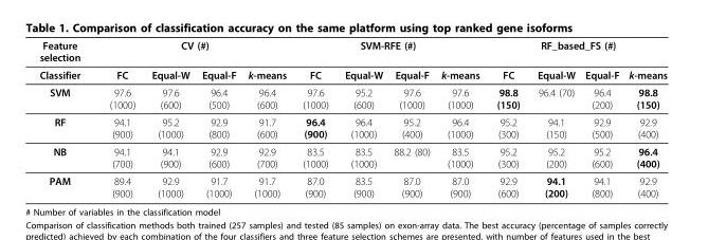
<table><thead><tr><td rowspan="2">Feature selection Classifier</td><td colspan="4">CV (#)</td><td colspan="4">SVM-RFE (#)</td><td colspan="4">RF_based_FS (#)</td></tr><tr><td>FC</td><td>Equal-W</td><td>Equal-F</td><td>k-means</td><td>FC</td><td>Equal-W</td><td>Equal-F</td><td>k-means</td><td>FC</td><td>Equal-W</td><td>Equal-F</td><td>k-means</td></tr></thead><tbody><tr><td>SVM</td><td>97.6 (1000)</td><td>97.6 (600)</td><td>96.4 (500)</td><td>96.4 (600)</td><td>97.6 (1000)</td><td>95.2 (600)</td><td>97.6 (1000)</td><td>97.6 (1000)</td><td>98.8 (150)</td><td>96.4 (70)</td><td>96.4 (200)</td><td>98.8 (150)</td></tr><tr><td>RF</td><td>94.1 (900)</td><td>95.2 (1000)</td><td>92.9 (800)</td><td>91.7 (600)</td><td>96.4 (900)</td><td>96.4 (1000)</td><td>95.2 (400)</td><td>96.4 (1000)</td><td>95.2 (300)</td><td>94.1 (150)</td><td>92.9 (500)</td><td>92.9 (400)</td></tr><tr><td>NB</td><td>94.1 (700)</td><td>94.1 (900)</td><td>92.9 (600)</td><td>92.9 (700)</td><td>83.5 (1000)</td><td>83.5 (1000)</td><td>88.2 (80)</td><td>83.5 (1000)</td><td>95.2 (300)</td><td>95.2 (200)</td><td>95.2 (600)</td><td>96.4 (400)</td></tr><tr><td>PAM</td><td>89.4 (900)</td><td>92.9 (1000)</td><td>91.7 (1000)</td><td>91.7 (1000)</td><td>87.0 (900)</td><td>83.5 (900)</td><td>87.0 (900)</td><td>87.0 (900)</td><td>92.9 (600)</td><td>94.1 (200)</td><td>94.1 (800)</td><td>92.9 (400)</td></tr></tbody></table>